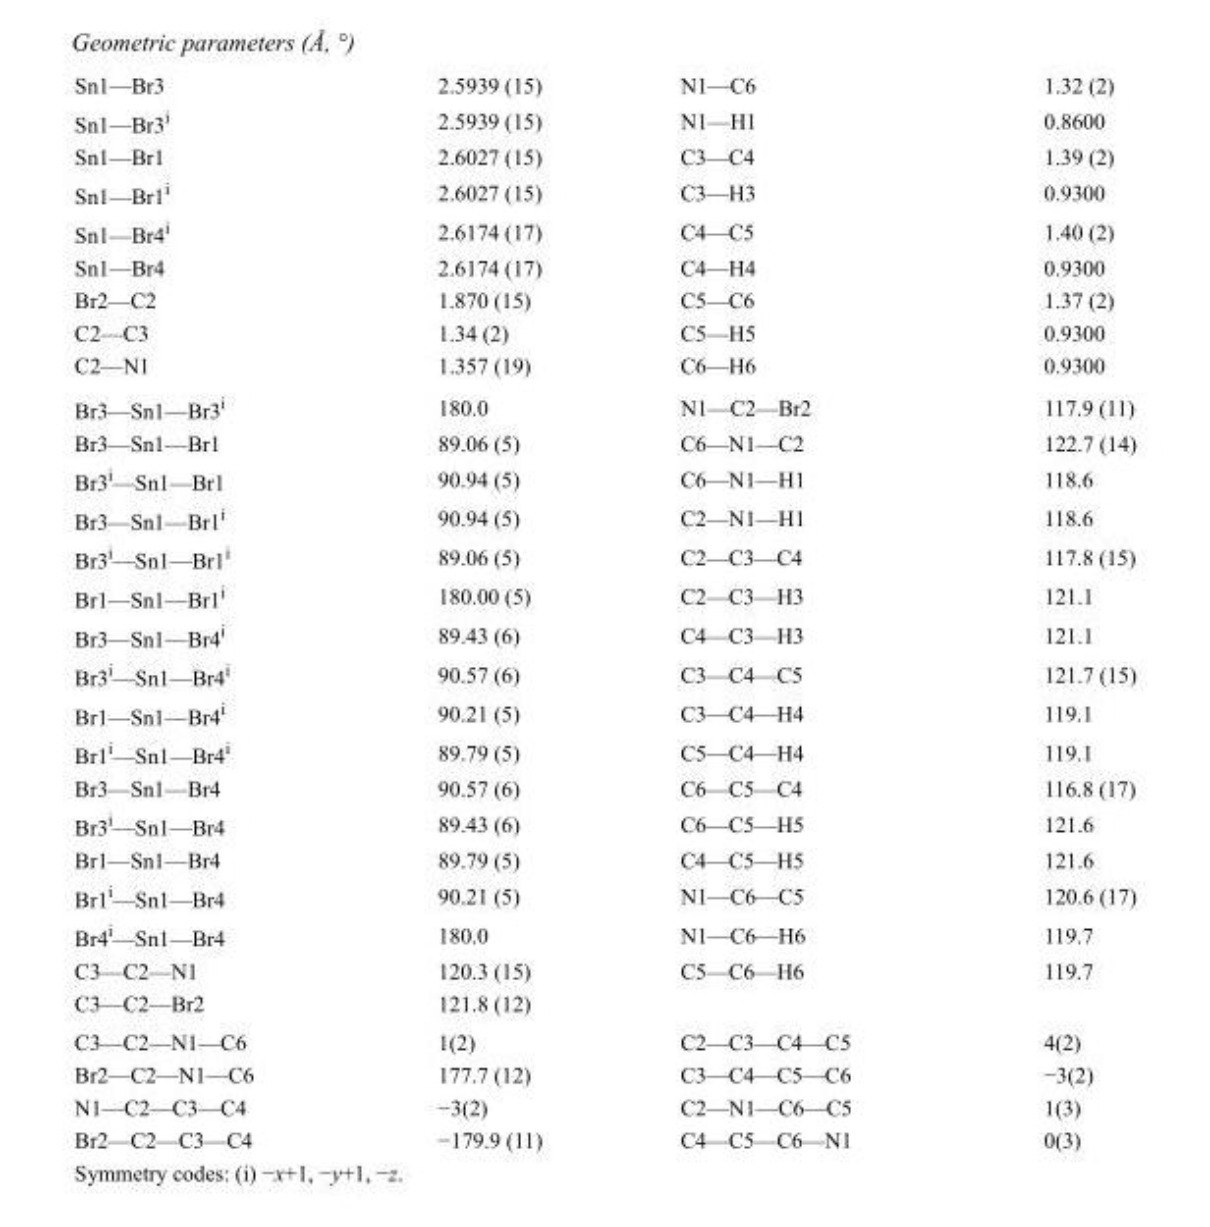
<table><tbody><tr><td>Sn1—Br3</td><td>2.5939 (15)</td><td>N1—C6</td><td>1.32 (2)</td></tr><tr><td>Sn1—Br3<sup>i</sup></td><td>2.5939 (15)</td><td>N1—H1</td><td>0.8600</td></tr><tr><td>Sn1—Br1</td><td>2.6027 (15)</td><td>C3—C4</td><td>1.39 (2)</td></tr><tr><td>Sn1—Br1<sup>i</sup></td><td>2.6027 (15)</td><td>C3—H3</td><td>0.9300</td></tr><tr><td>Sn1—Br4<sup>i</sup></td><td>2.6174 (17)</td><td>C4—C5</td><td>1.40 (2)</td></tr><tr><td>Sn1—Br4</td><td>2.6174 (17)</td><td>C4—H4</td><td>0.9300</td></tr><tr><td>Br2—C2</td><td>1.870 (15)</td><td>C5—C6</td><td>1.37 (2)</td></tr><tr><td>C2—C3</td><td>1.34 (2)</td><td>C5—H5</td><td>0.9300</td></tr><tr><td>C2—N1</td><td>1.357 (19)</td><td>C6—H6</td><td>0.9300</td></tr><tr><td>Br3—Sn1—Br3<sup>i</sup></td><td>180.0</td><td>N1—C2—Br2</td><td>117.9 (11)</td></tr><tr><td>Br3—Sn1—Br1</td><td>89.06 (5)</td><td>C6—N1—C2</td><td>122.7 (14)</td></tr><tr><td>Br3<sup>i</sup>—Sn1—Br1</td><td>90.94 (5)</td><td>C6—N1—H1</td><td>118.6</td></tr><tr><td>Br3—Sn1—Br1<sup>i</sup></td><td>90.94 (5)</td><td>C2—N1—H1</td><td>118.6</td></tr><tr><td>Br3<sup>i</sup>—Sn1—Br1<sup>i</sup></td><td>89.06 (5)</td><td>C2—C3—C4</td><td>117.8 (15)</td></tr><tr><td>Br1—Sn1—Br1<sup>i</sup></td><td>180.00 (5)</td><td>C2—C3—H3</td><td>121.1</td></tr><tr><td>Br3—Sn1—Br4<sup>i</sup></td><td>89.43 (6)</td><td>C4—C3—H3</td><td>121.1</td></tr><tr><td>Br3<sup>i</sup>—Sn1—Br4<sup>i</sup></td><td>90.57 (6)</td><td>C3—C4—C5</td><td>121.7 (15)</td></tr><tr><td>Br1—Sn1—Br4<sup>i</sup></td><td>90.21 (5)</td><td>C3—C4—H4</td><td>119.1</td></tr><tr><td>Br1<sup>i</sup>—Sn1—Br4<sup>i</sup></td><td>89.79 (5)</td><td>C5—C4—H4</td><td>119.1</td></tr><tr><td>Br3—Sn1—Br4</td><td>90.57 (6)</td><td>C6—C5—C4</td><td>116.8 (17)</td></tr><tr><td>Br3<sup>i</sup>—Sn1—Br4</td><td>89.43 (6)</td><td>C6—C5—H5</td><td>121.6</td></tr><tr><td>Br1—Sn1—Br4</td><td>89.79 (5)</td><td>C4—C5—H5</td><td>121.6</td></tr><tr><td>Br1<sup>i</sup>—Sn1—Br4</td><td>90.21 (5)</td><td>N1—C6—C5</td><td>120.6 (17)</td></tr><tr><td>Br4<sup>i</sup>—Sn1—Br4</td><td>180.0</td><td>N1—C6—H6</td><td>119.7</td></tr><tr><td>C3—C2—N1</td><td>120.3 (15)</td><td>C5—C6—H6</td><td>119.7</td></tr><tr><td>C3—C2—Br2</td><td>121.8 (12)</td><td></td><td></td></tr><tr><td>C3—C2—N1—C6</td><td>1(2)</td><td>C2—C3—C4—C5</td><td>4(2)</td></tr><tr><td>Br2—C2—N1—C6</td><td>177.7 (12)</td><td>C3—C4—C5—C6</td><td>−3(2)</td></tr><tr><td>N1—C2—C3—C4</td><td>−3(2)</td><td>C2—N1—C6—C5</td><td>1(3)</td></tr><tr><td>Br2—C2—C3—C4</td><td>−179.9 (11)</td><td>C4—C5—C6—N1</td><td>0(3)</td></tr></tbody></table>